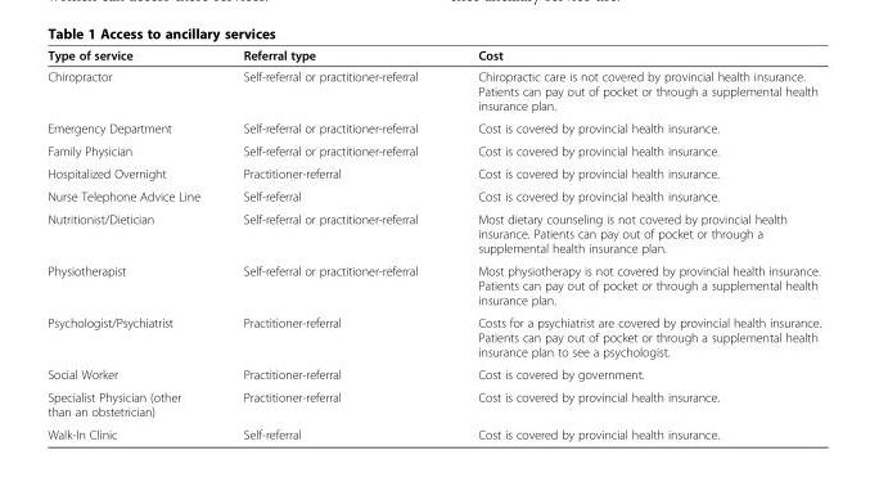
<table><thead><tr><td>Type of service</td><td>Referral type</td><td>Cost</td></tr></thead><tbody><tr><td>Chiropractor</td><td>Self-referral or practitioner-referral</td><td>Chiropractic care is not covered by provincial health insurance. Patients can pay out of pocket or through a supplemental health insurance plan.</td></tr><tr><td>Emergency Department</td><td>Self-referral or practitioner-referral</td><td>Cost is covered by provincial health insurance.</td></tr><tr><td>Family Physician</td><td>Self-referral or practitioner-referral</td><td>Cost is covered by provincial health insurance.</td></tr><tr><td>Hospitalized Overnight</td><td>Practitioner-referral</td><td>Cost is covered by provincial health insurance.</td></tr><tr><td>Nurse Telephone Advice Line</td><td>Self-referral</td><td>Cost is covered by provincial health insurance.</td></tr><tr><td>Nutritionist/Dietician</td><td>Self-referral or practitioner-referral</td><td>Most dietary counseling is not covered by provincial health insurance. Patients can pay out of pocket or through a supplemental health insurance plan.</td></tr><tr><td>Physiotherapist</td><td>Self-referral or practitioner-referral</td><td>Most physiotherapy is not covered by provincial health insurance. Patients can pay out of pocket or through a supplemental health insurance plan.</td></tr><tr><td>Psychologist/Psychiatrist</td><td>Practitioner-referral</td><td>Costs for a psychiatrist are covered by provincial health insurance. Patients can pay out of pocket or through a supplemental health insurance plan to see a psychologist.</td></tr><tr><td>Social Worker</td><td>Practitioner-referral</td><td>Cost is covered by government.</td></tr><tr><td>Specialist Physician (other than an obstetrician)</td><td>Practitioner-referral</td><td>Cost is covered by provincial health insurance.</td></tr><tr><td>Walk-In Clinic</td><td>Self-referral</td><td>Cost is covered by provincial health insurance.</td></tr></tbody></table>